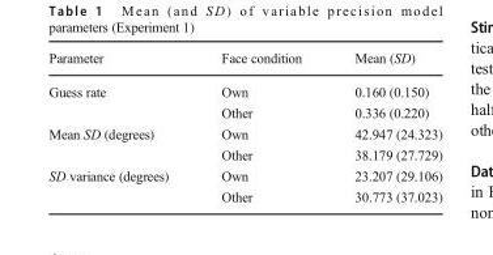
<table><thead><tr><td>Parameter</td><td>Face condition</td><td>Mean (SD)</td></tr></thead><tbody><tr><td rowspan="2">Guess rate</td><td>Own</td><td>0.160 (0.150)</td></tr><tr><td>Other</td><td>0.336 (0.220)</td></tr><tr><td rowspan="2">Mean SD (degrees)</td><td>Own</td><td>42.947 (24.323)</td></tr><tr><td>Other</td><td>38.179 (27.729)</td></tr><tr><td rowspan="2">SD variance (degrees)</td><td>Own</td><td>23.207 (29.106)</td></tr><tr><td>Other</td><td>30.773 (37.023)</td></tr></tbody></table>